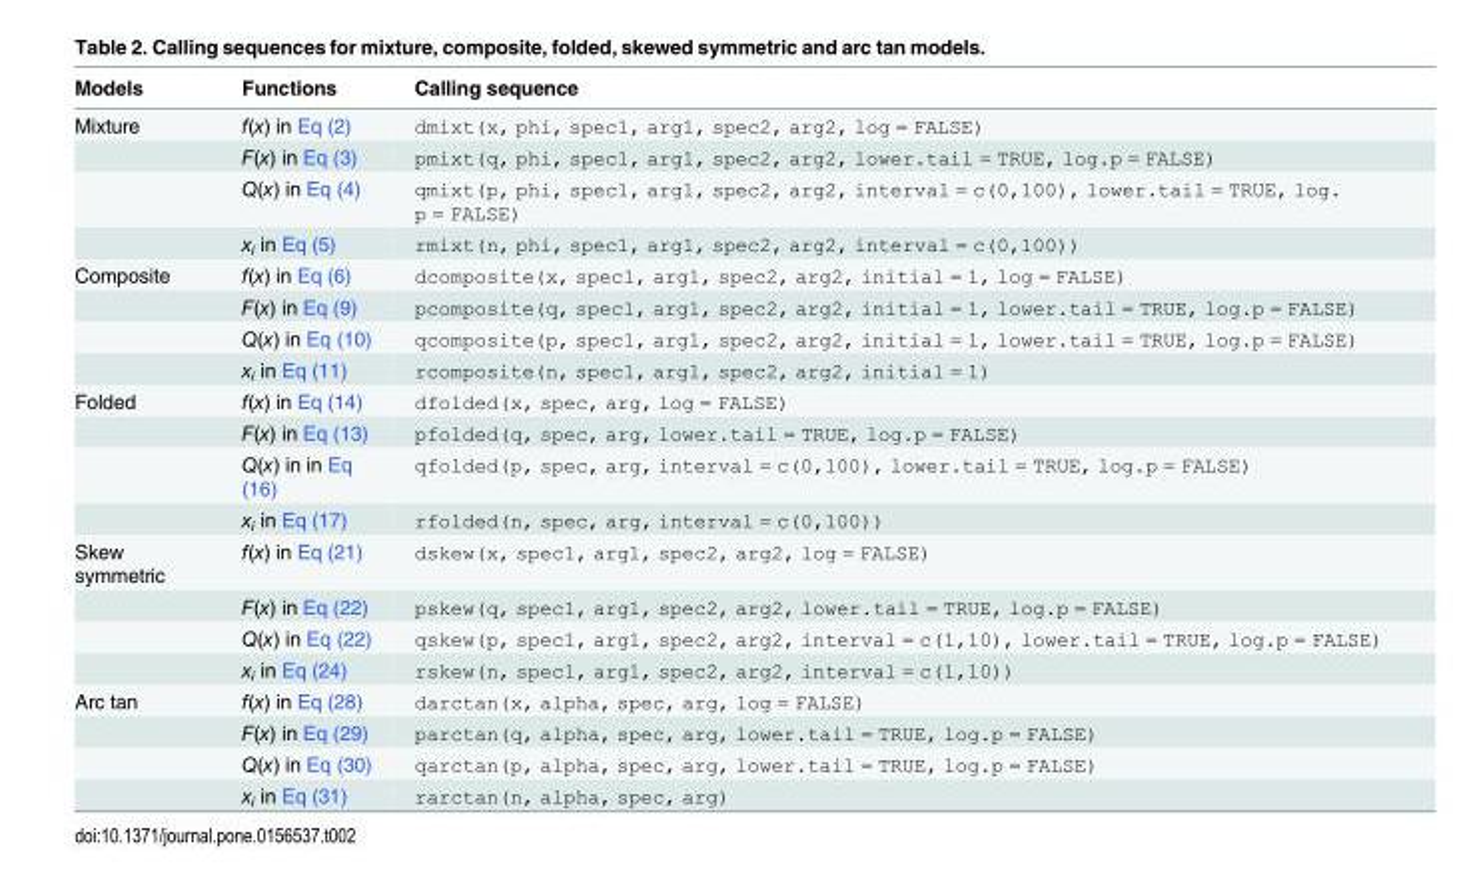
<table><thead><tr><td>Models</td><td>Functions</td><td>Calling sequence</td></tr></thead><tbody><tr><td rowspan="4">Mixture</td><td>f(x) in Eq (2)</td><td>dmixt(x, phi, spec1, arg1, spec2, arg2, log = FALSE)</td></tr><tr><td>F(x) in Eq (3)</td><td>pmixt(q, phi, spec1, arg1, spec2, arg2, lower.tail = TRUE, log.p = FALSE)</td></tr><tr><td>Q(x) in Eq (4)</td><td>qmixt(p, phi, spec1, arg1, spec2, arg2, interval = c(0,100), lower.tail = TRUE, log. p = FALSE)</td></tr><tr><td>x<sub>i</sub> in Eq (5)</td><td>rmixt(n, phi, spec1, arg1, spec2, arg2, interval = c(0,100))</td></tr><tr><td rowspan="4">Composite</td><td>f(x) in Eq (6)</td><td>dcomposite(x, spec1, arg1, spec2, arg2, initial = 1, log = FALSE)</td></tr><tr><td>F(x) in Eq (9)</td><td>pcomposite(q, spec1, arg1, spec2, arg2, initial = 1, lower.tail = TRUE, log.p = FALSE)</td></tr><tr><td>Q(x) in Eq (10)</td><td>qcomposite(p, spec1, arg1, spec2, arg2, initial = 1, lower.tail = TRUE, log.p = FALSE)</td></tr><tr><td>x<sub>i</sub> in Eq (11)</td><td>rcomposite(n, spec1, arg1, spec2, arg2, initial = 1)</td></tr><tr><td rowspan="4">Folded</td><td>f(x) in Eq (14)</td><td>dfolded(x, spec, arg, log = FALSE)</td></tr><tr><td>F(x) in Eq (13)</td><td>pfolded(q, spec, arg, lower.tail = TRUE, log.p = FALSE)</td></tr><tr><td>Q(x) in in Eq (16)</td><td>qfolded(p, spec, arg, interval = c(0,100), lower.tail = TRUE, log.p = FALSE)</td></tr><tr><td>x<sub>i</sub> in Eq (17)</td><td>rfolded(n, spec, arg, interval = c(0,100))</td></tr><tr><td rowspan="4">Skew symmetric</td><td>f(x) in Eq (21)</td><td>dskew(x, spec1, arg1, spec2, arg2, log = FALSE)</td></tr><tr><td>F(x) in Eq (22)</td><td>pskew(q, spec1, arg1, spec2, arg2, lower.tail = TRUE, log.p = FALSE)</td></tr><tr><td>Q(x) in Eq (22)</td><td>qskew(p, spec1, arg1, spec2, arg2, interval = c(1,10), lower.tail = TRUE, log.p = FALSE)</td></tr><tr><td>x<sub>i</sub> in Eq (24)</td><td>rskew(n, spec1, arg1, spec2, arg2, interval = c(1,10))</td></tr><tr><td rowspan="4">Arc tan</td><td>f(x) in Eq (28)</td><td>darctan(x, alpha, spec, arg, log = FALSE)</td></tr><tr><td>F(x) in Eq (29)</td><td>parctan(q, alpha, spec, arg, lower.tail = TRUE, log.p = FALSE)</td></tr><tr><td>Q(x) in Eq (30)</td><td>qarctan(p, alpha, spec, arg, lower.tail = TRUE, log.p = FALSE)</td></tr><tr><td>x<sub>i</sub> in Eq (31)</td><td>rarctan(n, alpha, spec, arg)</td></tr></tbody></table>